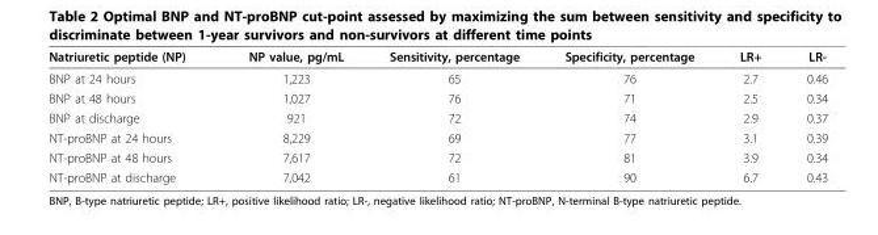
<table><thead><tr><td>Natriuretic peptide (NP)</td><td>NP value, pg/mL</td><td>Sensitivity, percentage</td><td>Specificity, percentage</td><td>LR+</td><td>LR-</td></tr></thead><tbody><tr><td>BNP at 24 hours</td><td>1,223</td><td>65</td><td>76</td><td>2.7</td><td>0.46</td></tr><tr><td>BNP at 48 hours</td><td>1,027</td><td>76</td><td>71</td><td>2.5</td><td>0.34</td></tr><tr><td>BNP at discharge</td><td>921</td><td>72</td><td>74</td><td>2.9</td><td>0.37</td></tr><tr><td>NT-proBNP at 24 hours</td><td>8,229</td><td>69</td><td>77</td><td>3.1</td><td>0.39</td></tr><tr><td>NT-proBNP at 48 hours</td><td>7,617</td><td>72</td><td>81</td><td>3.9</td><td>0.34</td></tr><tr><td>NT-proBNP at discharge</td><td>7,042</td><td>61</td><td>90</td><td>6.7</td><td>0.43</td></tr></tbody></table>